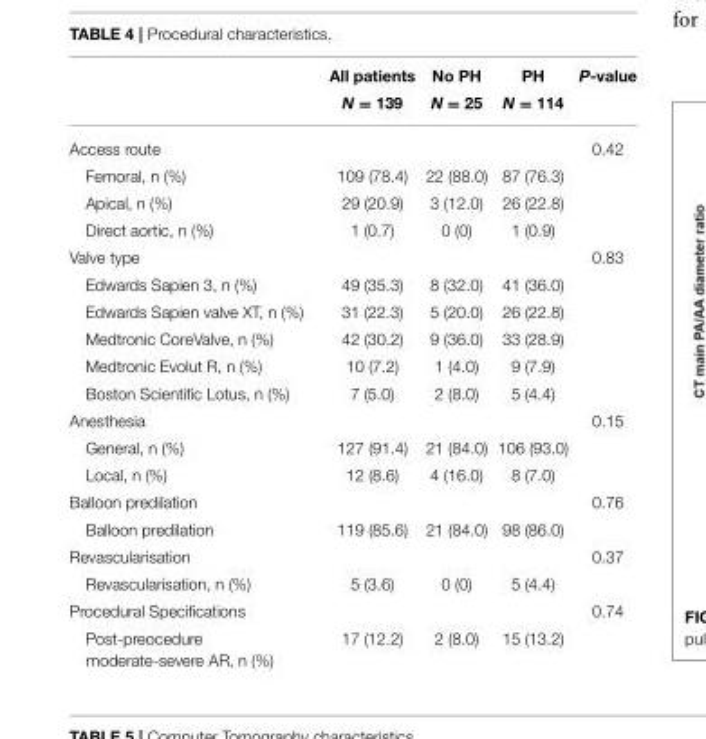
<table><thead><tr><td rowspan="2"></td><td rowspan="2">All patients N = 139</td><td rowspan="2">No PH N = 25</td><td rowspan="2">PH N = 114</td><td rowspan="2">P-value</td></tr><tr></tr></thead><tbody><tr><td>Access route</td><td></td><td></td><td></td><td>0.42</td></tr><tr><td>Femoral, n (%)</td><td>109 (78.4)</td><td>22 (88.0)</td><td>87 (76.3)</td><td></td></tr><tr><td>Apical, n (%)</td><td>29 (20.9)</td><td>3 (12.0)</td><td>26 (22.8)</td><td></td></tr><tr><td>Direct aortic, n (%)</td><td>1 (0.7)</td><td>0 (0)</td><td>1 (0.9)</td><td></td></tr><tr><td>Valve type</td><td></td><td></td><td></td><td>0.83</td></tr><tr><td>Edwards Sapien 3, n (%)</td><td>49 (35.3)</td><td>8 (32.0)</td><td>41 (36.0)</td><td></td></tr><tr><td>Edwards Sapien valve XT, n (%)</td><td>31 (22.3)</td><td>5 (20.0)</td><td>26 (22.8)</td><td></td></tr><tr><td>Medtronic CoreValve, n (%)</td><td>42 (30.2)</td><td>9 (36.0)</td><td>33 (28.9)</td><td></td></tr><tr><td>Medtronic Evolut R, n (%)</td><td>10 (7.2)</td><td>1 (4.0)</td><td>9 (7.9)</td><td></td></tr><tr><td>Boston Scientific Lotus, n (%)</td><td>7 (5.0)</td><td>2 (8.0)</td><td>5 (4.4)</td><td></td></tr><tr><td>Anesthesia</td><td></td><td></td><td></td><td>0.15</td></tr><tr><td>General, n (%)</td><td>127 (91.4)</td><td>21 (84.0)</td><td>106 (93.0)</td><td></td></tr><tr><td>Local, n (%)</td><td>12 (8.6)</td><td>4 (16.0)</td><td>8 (7.0)</td><td></td></tr><tr><td>Balloon predilation</td><td></td><td></td><td></td><td>0.76</td></tr><tr><td>Balloon predilation</td><td>119 (85.6)</td><td>21 (84.0)</td><td>98 (86.0)</td><td></td></tr><tr><td>Revascularisation</td><td></td><td></td><td></td><td>0.37</td></tr><tr><td>Revascularisation, n (%)</td><td>5 (3.6)</td><td>0 (0)</td><td>5 (4.4)</td><td></td></tr><tr><td>Procedural Specifications</td><td></td><td></td><td></td><td>0.74</td></tr><tr><td>Post-preocedure moderate-severe AR, n (%)</td><td>17 (12.2)</td><td>2 (8.0)</td><td>15 (13.2)</td><td></td></tr></tbody></table>